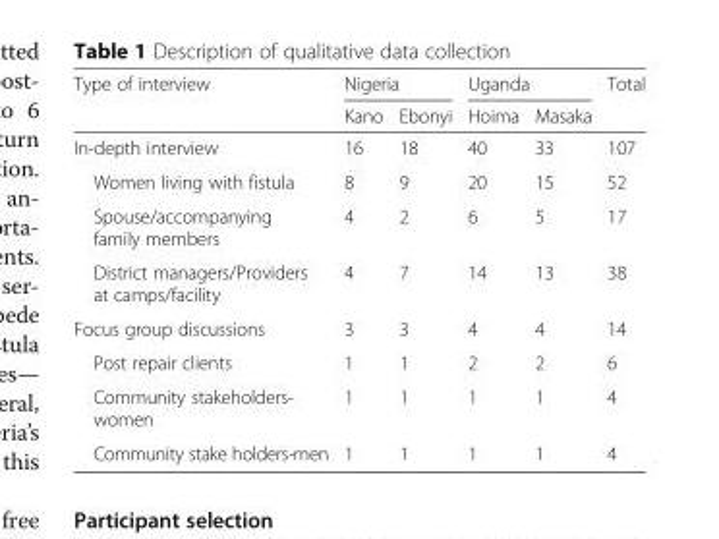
<table><thead><tr><td rowspan="2">Type of interview</td><td colspan="2">Nigeria</td><td colspan="2">Uganda</td><td rowspan="2">Total</td></tr><tr><td>Kano</td><td>Ebonyi</td><td>Hoima</td><td>Masaka</td></tr></thead><tbody><tr><td>In-depth interview</td><td>16</td><td>18</td><td>40</td><td>33</td><td>107</td></tr><tr><td>Women living with fistula</td><td>8</td><td>9</td><td>20</td><td>15</td><td>52</td></tr><tr><td>Spouse/accompanying family members</td><td>4</td><td>2</td><td>6</td><td>5</td><td>17</td></tr><tr><td>District managers/Providers at camps/facility</td><td>4</td><td>7</td><td>14</td><td>13</td><td>38</td></tr><tr><td>Focus group discussions</td><td>3</td><td>3</td><td>4</td><td>4</td><td>14</td></tr><tr><td>Post repair clients</td><td>1</td><td>1</td><td>2</td><td>2</td><td>6</td></tr><tr><td>Community stakeholders- women</td><td>1</td><td>1</td><td>1</td><td>1</td><td>4</td></tr><tr><td>Community stake holders-men</td><td>1</td><td>1</td><td>1</td><td>1</td><td>4</td></tr></tbody></table>